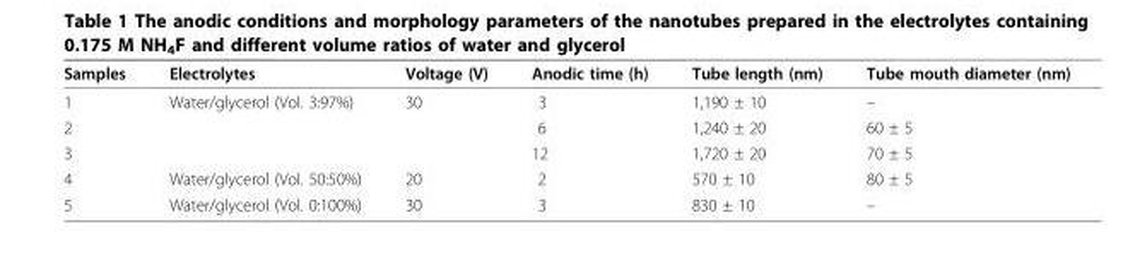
<table><thead><tr><td>Samples</td><td>Electrolytes</td><td>Voltage (V)</td><td>Anodic time (h)</td><td>Tube length (nm)</td><td>Tube mouth diameter (nm)</td></tr></thead><tbody><tr><td>1</td><td>Water/glycerol (Vol. 3:97%)</td><td>30</td><td>3</td><td>1,190 ± 10</td><td>–</td></tr><tr><td>2</td><td></td><td></td><td>6</td><td>1,240 ± 20</td><td>60 ± 5</td></tr><tr><td>3</td><td></td><td></td><td>12</td><td>1,720 ± 20</td><td>70 ± 5</td></tr><tr><td>4</td><td>Water/glycerol (Vol. 50:50%)</td><td>20</td><td>2</td><td>570 ± 10</td><td>80 ± 5</td></tr><tr><td>5</td><td>Water/glycerol (Vol. 0:100%)</td><td>30</td><td>3</td><td>830 ± 10</td><td>–</td></tr></tbody></table>